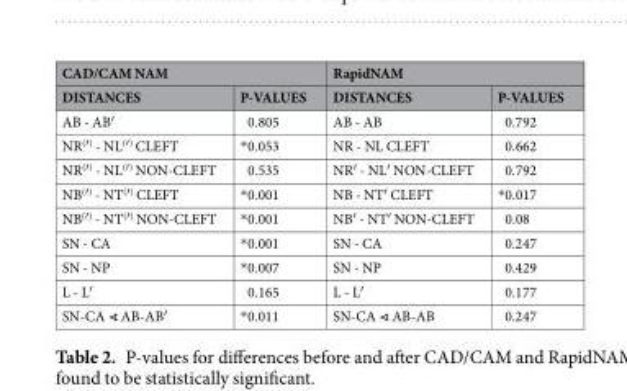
<table><thead><tr><td colspan="2">CAD/CAM NAM</td><td colspan="2">RapidNAM</td></tr><tr><td>DISTANCES</td><td>P-VALUES</td><td>DISTANCES</td><td>P-VALUES</td></tr></thead><tbody><tr><td>AB - AB′</td><td>0.805</td><td>AB - AB</td><td>0.792</td></tr><tr><td>NR<sup>(</sup>′<sup>)</sup> - NL<sup>(</sup>′<sup>)</sup> CLEFT</td><td>*0.053</td><td>NR - NL CLEFT</td><td>0.662</td></tr><tr><td>NR<sup>(</sup>′<sup>)</sup> - NL<sup>(</sup>′<sup>)</sup> NON-CLEFT</td><td>0.535</td><td>NR′ - NL′ NON-CLEFT</td><td>0.792</td></tr><tr><td>NB<sup>(</sup>′<sup>)</sup> - NT<sup>(</sup>′<sup>)</sup> CLEFT</td><td>*0.001</td><td>NB - NT′ CLEFT</td><td>*0.017</td></tr><tr><td>NB<sup>(</sup>′<sup>)</sup> - NT<sup>(</sup>′<sup>)</sup> NON-CLEFT</td><td>*0.001</td><td>NB′ - NT′ NON-CLEFT</td><td>0.08</td></tr><tr><td>SN - CA</td><td>*0.001</td><td>SN - CA</td><td>0.247</td></tr><tr><td>SN - NP</td><td>*0.007</td><td>SN - NP</td><td>0.429</td></tr><tr><td>L - L′</td><td>0.165</td><td>L - L′</td><td>0.177</td></tr><tr><td>SN-CA ∢ AB-AB′</td><td>*0.011</td><td>SN-CA ∢ AB-AB</td><td>0.247</td></tr></tbody></table>